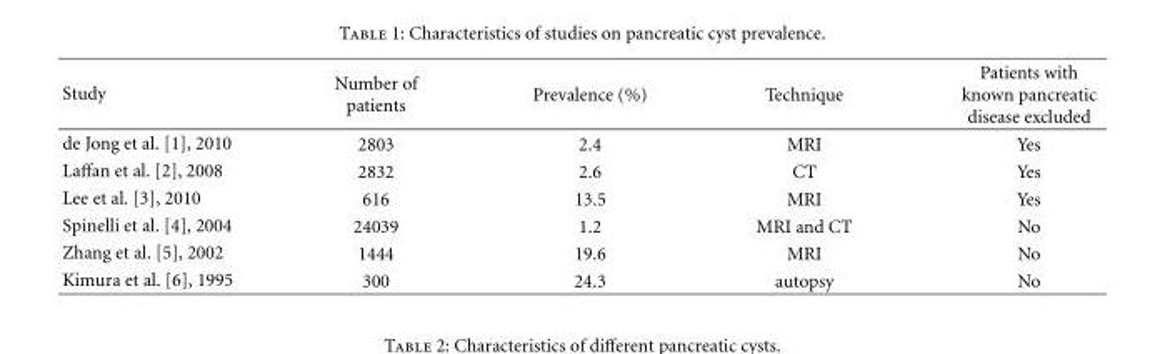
<table><thead><tr><td>Study</td><td>Number of patients</td><td>Prevalence (%)</td><td>Technique</td><td>Patients with known pancreatic disease excluded</td></tr></thead><tbody><tr><td>de Jong et al. [1], 2010</td><td>2803</td><td>2.4</td><td>MRI</td><td>Yes</td></tr><tr><td>Laffan et al. [2], 2008</td><td>2832</td><td>2.6</td><td>CT</td><td>Yes</td></tr><tr><td>Lee et al. [3], 2010</td><td>616</td><td>13.5</td><td>MRI</td><td>Yes</td></tr><tr><td>Spinelli et al. [4], 2004</td><td>24039</td><td>1.2</td><td>MRI and CT</td><td>No</td></tr><tr><td>Zhang et al. [5], 2002</td><td>1444</td><td>19.6</td><td>MRI</td><td>No</td></tr><tr><td>Kimura et al. [6], 1995</td><td>300</td><td>24.3</td><td>autopsy</td><td>No</td></tr></tbody></table>